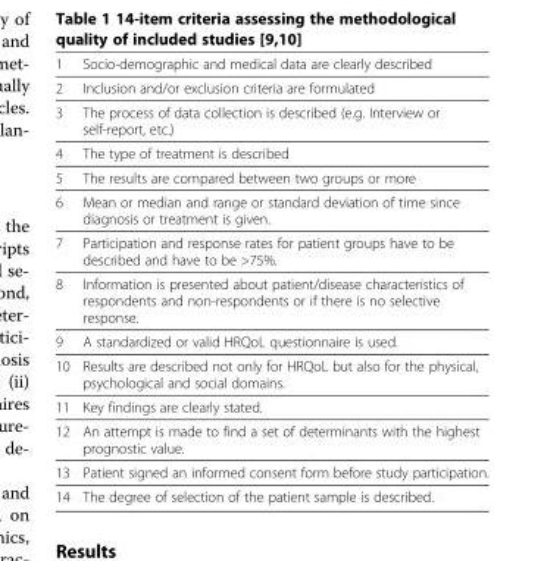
<table><thead><tr><td>1</td><td>Socio-demographic and medical data are clearly described</td></tr></thead><tbody><tr><td>2</td><td>Inclusion and/or exclusion criteria are formulated</td></tr><tr><td>3</td><td>The process of data collection is described (e.g. Interview or self-report, etc.)</td></tr><tr><td>4</td><td>The type of treatment is described</td></tr><tr><td>5</td><td>The results are compared between two groups or more</td></tr><tr><td>6</td><td>Mean or median and range or standard deviation of time since diagnosis or treatment is given.</td></tr><tr><td>7</td><td>Participation and response rates for patient groups have to be described and have to be &gt;75%.</td></tr><tr><td>8</td><td>Information is presented about patient/disease characteristics of respondents and non-respondents or if there is no selective response.</td></tr><tr><td>9</td><td>A standardized or valid HRQoL questionnaire is used.</td></tr><tr><td>10</td><td>Results are described not only for HRQoL but also for the physical, psychological and social domains.</td></tr><tr><td>11</td><td>Key findings are clearly stated.</td></tr><tr><td>12</td><td>An attempt is made to find a set of determinants with the highest prognostic value.</td></tr><tr><td>13</td><td>Patient signed an informed consent form before study participation.</td></tr><tr><td>14</td><td>The degree of selection of the patient sample is described.</td></tr></tbody></table>